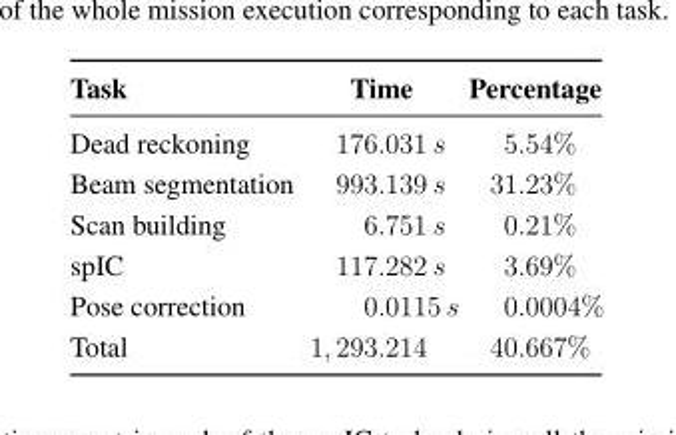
<table><thead><tr><td>Task</td><td>Time</td><td>Percentage</td></tr></thead><tbody><tr><td>Dead reckoning</td><td>176.031 s</td><td>5.54%</td></tr><tr><td>Beam segmentation</td><td>993.139 s</td><td>31.23%</td></tr><tr><td>Scan building</td><td>6.751 s</td><td>0.21%</td></tr><tr><td>spIC</td><td>117.282 s</td><td>3.69%</td></tr><tr><td>Pose correction</td><td>0.0115 s</td><td>0.0004%</td></tr><tr><td>Total</td><td>1, 293.214</td><td>40.667%</td></tr></tbody></table>